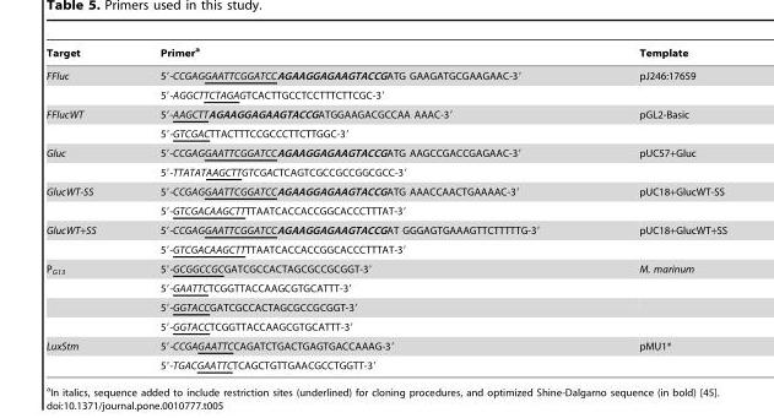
<table><thead><tr><td>Target</td><td>Primer<sup>a</sup></td><td>Template</td></tr></thead><tbody><tr><td rowspan="2">FFluc</td><td>5′-CCGAGGAATTCGGATCCAGAAGGAGAAGTACCGATG GAAGATGCGAAGAAC-3′</td><td>pJ246:17659</td></tr><tr><td>5′-AGGCTTCTAGAGTCACTTGCCTCCTTTCTTCGC-3′</td><td></td></tr><tr><td rowspan="2">FFlucWT</td><td>5′-AAGCTTAGAAGGAGAAGTACCGATGGAAGACGCCAA AAAC-3′</td><td>pGL2-Basic</td></tr><tr><td>5′-GTCGACTTACTTTCCGCCCTTCTTGGC-3′</td><td></td></tr><tr><td rowspan="2">Gluc</td><td>5′-CCGAGGAATTCGGATCCAGAAGGAGAAGTACCGATG AAGCCGACCGAGAAC-3′</td><td>pUC57+Gluc</td></tr><tr><td>5′-TTATATAAGCTTGTCGACTCAGTCGCCGCCGGCGCC-3′</td><td></td></tr><tr><td rowspan="2">GlucWT-SS</td><td>5′-CCGAGGAATTCGGATCCAGAAGGAGAAGTACCGATG AAACCAACTGAAAAC-3′</td><td>pUC18+GlucWT-SS</td></tr><tr><td>5′-GTCGACAAGCTTTTAATCACCACCGGCACCCTTTAT-3′</td><td></td></tr><tr><td rowspan="2">GlucWT+SS</td><td>5′-CCGAGGAATTCGGATCCAGAAGGAGAAGTACCGAT GGGAGTGAAAGTTCTTTTTG-3′</td><td>pUC18+GlucWT+SS</td></tr><tr><td>5′-GTCGACAAGCTTTTAATCACCACCGGCACCCTTTAT-3′</td><td></td></tr><tr><td rowspan="4">P<sub>G13</sub></td><td>5′-GCGGCCGCGATCGCCACTAGCGCCGCGGT-3′</td><td>M. marinum</td></tr><tr><td>5′-GAATTCTCGGTTACCAAGCGTGCATTT-3′</td><td></td></tr><tr><td>5′-GGTACCGATCGCCACTAGCGCCGCGGT-3′</td><td></td></tr><tr><td>5′-GGTACCTCGGTTACCAAGCGTGCATTT-3′</td><td></td></tr><tr><td rowspan="2">LuxStm</td><td>5′-CCGAGAATTCCAGATCTGACTGAGTGACCAAAG-3′</td><td>pMU1*</td></tr><tr><td>5′-TGACGAATTCTCAGCTGTTGAACGCCTGGTT-3′</td><td></td></tr></tbody></table>